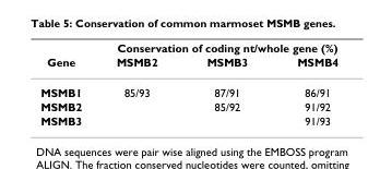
<table><thead><tr><td rowspan="2">Gene</td><td colspan="3">Conservation of coding nt/whole gene (%)</td></tr><tr><td>MSMB2</td><td>MSMB3</td><td>MSMB4</td></tr></thead><tbody><tr><td>MSMB1</td><td>85/93</td><td>87/91</td><td>86/91</td></tr><tr><td>MSMB2</td><td></td><td>85/92</td><td>91/92</td></tr><tr><td>MSMB3</td><td></td><td></td><td>91/93</td></tr></tbody></table>